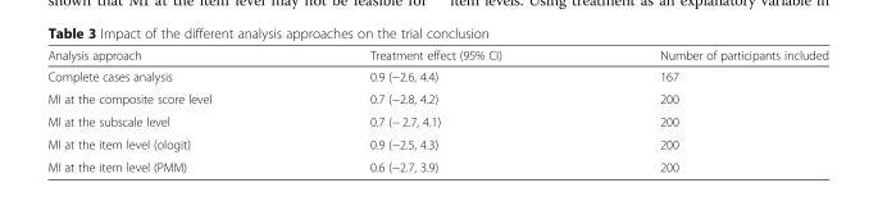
<table><thead><tr><td>Analysis approach</td><td>Treatment effect (95% CI)</td><td>Number of participants included</td></tr></thead><tbody><tr><td>Complete cases analysis</td><td>0.9 (−2.6, 4.4)</td><td>167</td></tr><tr><td>MI at the composite score level</td><td>0.7 (−2.8, 4.2)</td><td>200</td></tr><tr><td>MI at the subscale level</td><td>0.7 (− 2.7, 4.1)</td><td>200</td></tr><tr><td>MI at the item level (ologit)</td><td>0.9 (−2.5, 4.3)</td><td>200</td></tr><tr><td>MI at the item level (PMM)</td><td>0.6 (−2.7, 3.9)</td><td>200</td></tr></tbody></table>